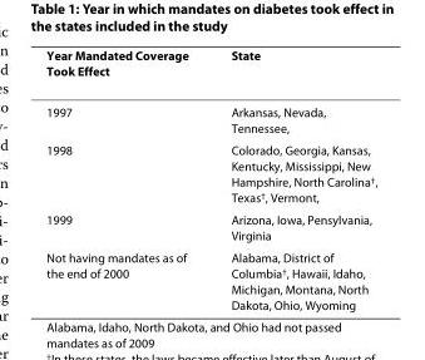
<table><thead><tr><td>Year Mandated Coverage Took Effect</td><td>State</td></tr></thead><tbody><tr><td>1997</td><td>Arkansas, Nevada, Tennessee,</td></tr><tr><td>1998</td><td>Colorado, Georgia, Kansas, Kentucky, Mississippi, New Hampshire, North Carolina<sup>†</sup>, Texas<sup>†</sup>, Vermont,</td></tr><tr><td>1999</td><td>Arizona, Iowa, Pensylvania, Virginia</td></tr><tr><td>Not having mandates as of the end of 2000</td><td>Alabama, District of Columbia<sup>†</sup>, Hawaii, Idaho, Michigan, Montana, North Dakota, Ohio, Wyoming</td></tr></tbody></table>